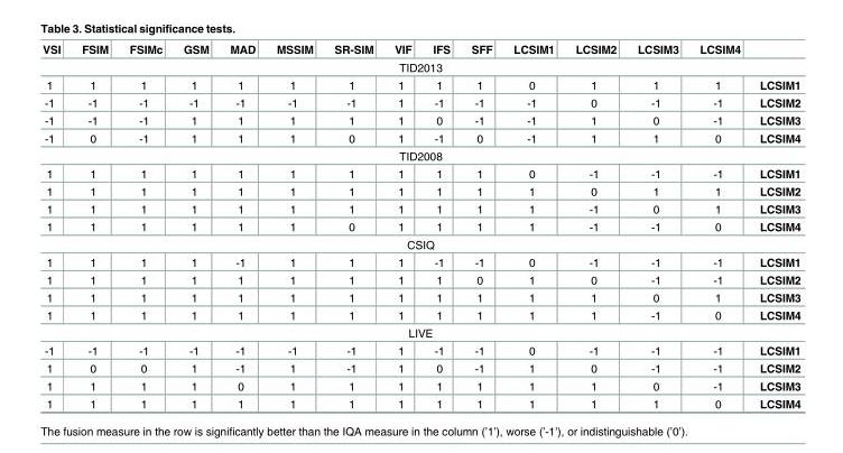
<table><thead><tr><td>VSI</td><td>FSIM</td><td>FSIMc</td><td>GSM</td><td>MAD</td><td>MSSIM</td><td>SR-SIM</td><td>VIF</td><td>IFS</td><td>SFF</td><td>LCSIM1</td><td>LCSIM2</td><td>LCSIM3</td><td>LCSIM4</td><td></td></tr></thead><tbody><tr><td colspan="15">TID2013</td></tr><tr><td>1</td><td>1</td><td>1</td><td>1</td><td>1</td><td>1</td><td>1</td><td>1</td><td>1</td><td>1</td><td>0</td><td>1</td><td>1</td><td>1</td><td>LCSIM1</td></tr><tr><td>-1</td><td>-1</td><td>-1</td><td>-1</td><td>-1</td><td>-1</td><td>-1</td><td>1</td><td>-1</td><td>-1</td><td>-1</td><td>0</td><td>-1</td><td>-1</td><td>LCSIM2</td></tr><tr><td>-1</td><td>-1</td><td>-1</td><td>1</td><td>1</td><td>1</td><td>1</td><td>1</td><td>0</td><td>-1</td><td>-1</td><td>1</td><td>0</td><td>-1</td><td>LCSIM3</td></tr><tr><td>-1</td><td>0</td><td>-1</td><td>1</td><td>1</td><td>1</td><td>0</td><td>1</td><td>-1</td><td>0</td><td>-1</td><td>1</td><td>1</td><td>0</td><td>LCSIM4</td></tr><tr><td colspan="15">TID2008</td></tr><tr><td>1</td><td>1</td><td>1</td><td>1</td><td>1</td><td>1</td><td>1</td><td>1</td><td>1</td><td>1</td><td>0</td><td>-1</td><td>-1</td><td>-1</td><td>LCSIM1</td></tr><tr><td>1</td><td>1</td><td>1</td><td>1</td><td>1</td><td>1</td><td>1</td><td>1</td><td>1</td><td>1</td><td>1</td><td>0</td><td>1</td><td>1</td><td>LCSIM2</td></tr><tr><td>1</td><td>1</td><td>1</td><td>1</td><td>1</td><td>1</td><td>1</td><td>1</td><td>1</td><td>1</td><td>1</td><td>-1</td><td>0</td><td>1</td><td>LCSIM3</td></tr><tr><td>1</td><td>1</td><td>1</td><td>1</td><td>1</td><td>1</td><td>0</td><td>1</td><td>1</td><td>1</td><td>1</td><td>-1</td><td>-1</td><td>0</td><td>LCSIM4</td></tr><tr><td colspan="15">CSIQ</td></tr><tr><td>1</td><td>1</td><td>1</td><td>1</td><td>-1</td><td>1</td><td>1</td><td>1</td><td>-1</td><td>-1</td><td>0</td><td>-1</td><td>-1</td><td>-1</td><td>LCSIM1</td></tr><tr><td>1</td><td>1</td><td>1</td><td>1</td><td>1</td><td>1</td><td>1</td><td>1</td><td>1</td><td>0</td><td>1</td><td>0</td><td>-1</td><td>-1</td><td>LCSIM2</td></tr><tr><td>1</td><td>1</td><td>1</td><td>1</td><td>1</td><td>1</td><td>1</td><td>1</td><td>1</td><td>1</td><td>1</td><td>1</td><td>0</td><td>1</td><td>LCSIM3</td></tr><tr><td>1</td><td>1</td><td>1</td><td>1</td><td>1</td><td>1</td><td>1</td><td>1</td><td>1</td><td>1</td><td>1</td><td>1</td><td>-1</td><td>0</td><td>LCSIM4</td></tr><tr><td colspan="15">LIVE</td></tr><tr><td>-1</td><td>-1</td><td>-1</td><td>-1</td><td>-1</td><td>-1</td><td>-1</td><td>1</td><td>-1</td><td>-1</td><td>0</td><td>-1</td><td>-1</td><td>-1</td><td>LCSIM1</td></tr><tr><td>1</td><td>0</td><td>0</td><td>1</td><td>-1</td><td>1</td><td>-1</td><td>1</td><td>0</td><td>-1</td><td>1</td><td>0</td><td>-1</td><td>-1</td><td>LCSIM2</td></tr><tr><td>1</td><td>1</td><td>1</td><td>1</td><td>0</td><td>1</td><td>1</td><td>1</td><td>1</td><td>1</td><td>1</td><td>1</td><td>0</td><td>-1</td><td>LCSIM3</td></tr><tr><td>1</td><td>1</td><td>1</td><td>1</td><td>1</td><td>1</td><td>1</td><td>1</td><td>1</td><td>1</td><td>1</td><td>1</td><td>1</td><td>0</td><td>LCSIM4</td></tr></tbody></table>